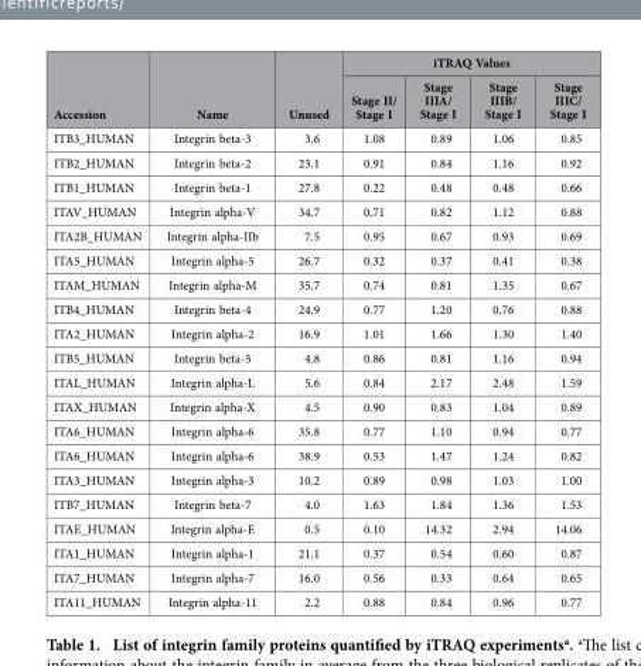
<table><thead><tr><td rowspan="2">Accession</td><td rowspan="2">Name</td><td rowspan="2">Unused</td><td colspan="4">iTRAQ Values</td></tr><tr><td>Stage II/ Stage I</td><td>Stage IIIA/ Stage I</td><td>Stage IIIB/ Stage I</td><td>Stage IIIC/ Stage I</td></tr></thead><tbody><tr><td>ITB3_HUMAN</td><td>Integrin beta-3</td><td>3.6</td><td>1.08</td><td>0.89</td><td>1.06</td><td>0.85</td></tr><tr><td>ITB2_HUMAN</td><td>Integrin beta-2</td><td>23.1</td><td>0.91</td><td>0.84</td><td>1.16</td><td>0.92</td></tr><tr><td>ITB1_HUMAN</td><td>Integrin beta-1</td><td>27.8</td><td>0.22</td><td>0.48</td><td>0.48</td><td>0.66</td></tr><tr><td>ITAV_HUMAN</td><td>Integrin alpha-V</td><td>34.7</td><td>0.71</td><td>0.82</td><td>1.12</td><td>0.88</td></tr><tr><td>ITA2B_HUMAN</td><td>Integrin alpha-IIb</td><td>7.5</td><td>0.95</td><td>0.67</td><td>0.93</td><td>0.69</td></tr><tr><td>ITA5_HUMAN</td><td>Integrin alpha-5</td><td>26.7</td><td>0.32</td><td>0.37</td><td>0.41</td><td>0.38</td></tr><tr><td>ITAM_HUMAN</td><td>Integrin alpha-M</td><td>35.7</td><td>0.74</td><td>0.81</td><td>1.35</td><td>0.67</td></tr><tr><td>ITB4_HUMAN</td><td>Integrin beta-4</td><td>24.9</td><td>0.77</td><td>1.20</td><td>0.76</td><td>0.88</td></tr><tr><td>ITA2_HUMAN</td><td>Integrin alpha-2</td><td>16.9</td><td>1.01</td><td>1.66</td><td>1.30</td><td>1.40</td></tr><tr><td>ITB5_HUMAN</td><td>Integrin beta-5</td><td>4.8</td><td>0.86</td><td>0.81</td><td>1.16</td><td>0.94</td></tr><tr><td>ITAL_HUMAN</td><td>Integrin alpha-L</td><td>5.6</td><td>0.84</td><td>2.17</td><td>2.48</td><td>1.59</td></tr><tr><td>ITAX_HUMAN</td><td>Integrin alpha-X</td><td>4.5</td><td>0.90</td><td>0.83</td><td>1.04</td><td>0.89</td></tr><tr><td>ITA6_HUMAN</td><td>Integrin alpha-6</td><td>35.8</td><td>0.77</td><td>1.10</td><td>0.94</td><td>0.77</td></tr><tr><td>ITA6_HUMAN</td><td>Integrin alpha-6</td><td>38.9</td><td>0.53</td><td>1.47</td><td>1.24</td><td>0.82</td></tr><tr><td>ITA3_HUMAN</td><td>Integrin alpha-3</td><td>10.2</td><td>0.89</td><td>0.98</td><td>1.03</td><td>1.00</td></tr><tr><td>ITB7_HUMAN</td><td>Integrin beta-7</td><td>4.0</td><td>1.63</td><td>1.84</td><td>1.36</td><td>1.53</td></tr><tr><td>ITAE_HUMAN</td><td>Integrin alpha-E</td><td>0.5</td><td>0.10</td><td>14.32</td><td>2.94</td><td>14.06</td></tr><tr><td>ITA1_HUMAN</td><td>Integrin alpha-1</td><td>21.1</td><td>0.37</td><td>0.54</td><td>0.60</td><td>0.87</td></tr><tr><td>ITA7_HUMAN</td><td>Integrin alpha-7</td><td>16.0</td><td>0.56</td><td>0.33</td><td>0.64</td><td>0.65</td></tr><tr><td>ITA11_HUMAN</td><td>Integrin alpha-11</td><td>2.2</td><td>0.88</td><td>0.84</td><td>0.96</td><td>0.77</td></tr></tbody></table>